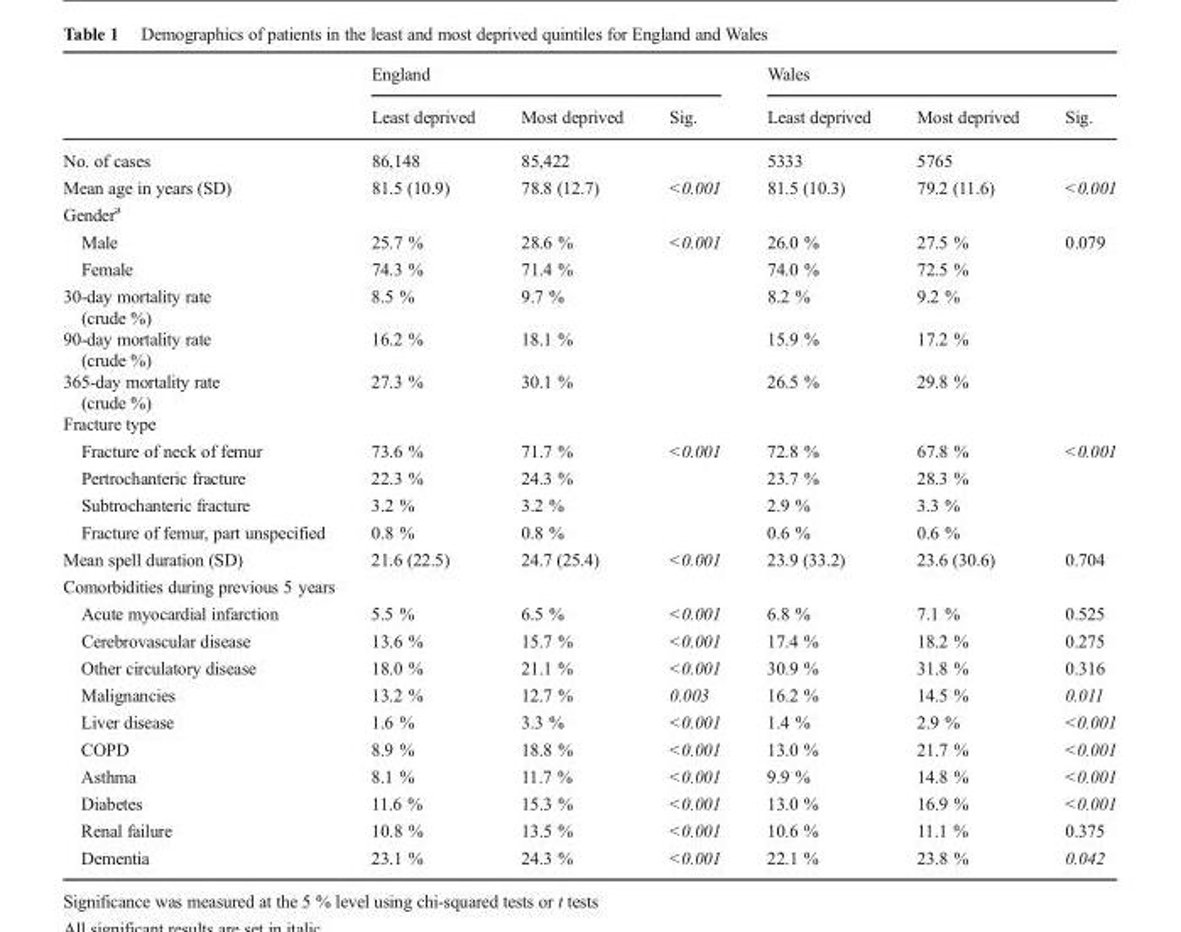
<table><thead><tr><td rowspan="2"></td><td colspan="3">England</td><td colspan="3">Wales</td></tr><tr><td>Least deprived</td><td>Most deprived</td><td>Sig.</td><td>Least deprived</td><td>Most deprived</td><td>Sig.</td></tr></thead><tbody><tr><td>No. of cases</td><td>86,148</td><td>85,422</td><td></td><td>5333</td><td>5765</td><td></td></tr><tr><td>Mean age in years (SD)</td><td>81.5 (10.9)</td><td>78.8 (12.7)</td><td>&lt;0.001</td><td>81.5 (10.3)</td><td>79.2 (11.6)</td><td>&lt;0.001</td></tr><tr><td colspan="7">Gender<sup>a</sup></td></tr><tr><td>Male</td><td>25.7 %</td><td>28.6 %</td><td>&lt;0.001</td><td>26.0 %</td><td>27.5 %</td><td>0.079</td></tr><tr><td>Female</td><td>74.3 %</td><td>71.4 %</td><td></td><td>74.0 %</td><td>72.5 %</td><td></td></tr><tr><td>30-day mortality rate (crude %)</td><td>8.5 %</td><td>9.7 %</td><td></td><td>8.2 %</td><td>9.2 %</td><td></td></tr><tr><td>90-day mortality rate (crude %)</td><td>16.2 %</td><td>18.1 %</td><td></td><td>15.9 %</td><td>17.2 %</td><td></td></tr><tr><td>365-day mortality rate (crude %)</td><td>27.3 %</td><td>30.1 %</td><td></td><td>26.5 %</td><td>29.8 %</td><td></td></tr><tr><td colspan="7">Fracture type</td></tr><tr><td>Fracture of neck of femur</td><td>73.6 %</td><td>71.7 %</td><td>&lt;0.001</td><td>72.8 %</td><td>67.8 %</td><td>&lt;0.001</td></tr><tr><td>Pertrochanteric fracture</td><td>22.3 %</td><td>24.3 %</td><td></td><td>23.7 %</td><td>28.3 %</td><td></td></tr><tr><td>Subtrochanteric fracture</td><td>3.2 %</td><td>3.2 %</td><td></td><td>2.9 %</td><td>3.3 %</td><td></td></tr><tr><td>Fracture of femur, part unspecified</td><td>0.8 %</td><td>0.8 %</td><td></td><td>0.6 %</td><td>0.6 %</td><td></td></tr><tr><td>Mean spell duration (SD)</td><td>21.6 (22.5)</td><td>24.7 (25.4)</td><td>&lt;0.001</td><td>23.9 (33.2)</td><td>23.6 (30.6)</td><td>0.704</td></tr><tr><td colspan="7">Comorbidities during previous 5 years</td></tr><tr><td>Acute myocardial infarction</td><td>5.5 %</td><td>6.5 %</td><td>&lt;0.001</td><td>6.8 %</td><td>7.1 %</td><td>0.525</td></tr><tr><td>Cerebrovascular disease</td><td>13.6 %</td><td>15.7 %</td><td>&lt;0.001</td><td>17.4 %</td><td>18.2 %</td><td>0.275</td></tr><tr><td>Other circulatory disease</td><td>18.0 %</td><td>21.1 %</td><td>&lt;0.001</td><td>30.9 %</td><td>31.8 %</td><td>0.316</td></tr><tr><td>Malignancies</td><td>13.2 %</td><td>12.7 %</td><td>0.003</td><td>16.2 %</td><td>14.5 %</td><td>0.011</td></tr><tr><td>Liver disease</td><td>1.6 %</td><td>3.3 %</td><td>&lt;0.001</td><td>1.4 %</td><td>2.9 %</td><td>&lt;0.001</td></tr><tr><td>COPD</td><td>8.9 %</td><td>18.8 %</td><td>&lt;0.001</td><td>13.0 %</td><td>21.7 %</td><td>&lt;0.001</td></tr><tr><td>Asthma</td><td>8.1 %</td><td>11.7 %</td><td>&lt;0.001</td><td>9.9 %</td><td>14.8 %</td><td>&lt;0.001</td></tr><tr><td>Diabetes</td><td>11.6 %</td><td>15.3 %</td><td>&lt;0.001</td><td>13.0 %</td><td>16.9 %</td><td>&lt;0.001</td></tr><tr><td>Renal failure</td><td>10.8 %</td><td>13.5 %</td><td>&lt;0.001</td><td>10.6 %</td><td>11.1 %</td><td>0.375</td></tr><tr><td>Dementia</td><td>23.1 %</td><td>24.3 %</td><td>&lt;0.001</td><td>22.1 %</td><td>23.8 %</td><td>0.042</td></tr></tbody></table>